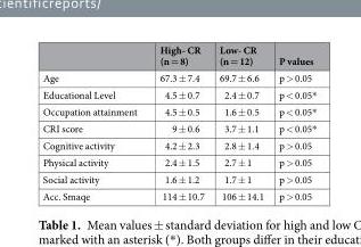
<table><thead><tr><td></td><td>High- CR (n = 8)</td><td>Low- CR (n = 12)</td><td>P values</td></tr></thead><tbody><tr><td>Age</td><td>67.3 ± 7.4</td><td>69.7 ± 6.6</td><td>p &gt; 0.05</td></tr><tr><td>Educational Level</td><td>4.5 ± 0.7</td><td>2.4 ± 0.7</td><td>p &lt; 0.05*</td></tr><tr><td>Occupation attainment</td><td>4.5 ± 0.5</td><td>1.6 ± 0.5</td><td>p &lt; 0.05*</td></tr><tr><td>CRI score</td><td>9 ± 0.6</td><td>3.7 ± 1.1</td><td>p &lt; 0.05*</td></tr><tr><td>Cognitive activity</td><td>4.2 ± 2.3</td><td>2.8 ± 1.4</td><td>p &gt; 0.05</td></tr><tr><td>Physical activity</td><td>2.4 ± 1.5</td><td>2.7 ± 1</td><td>p &gt; 0.05</td></tr><tr><td>Social activity</td><td>1.6 ± 1.2</td><td>1.7 ± 1</td><td>p &gt; 0.05</td></tr><tr><td>Acc. Smaqe</td><td>114 ± 10.7</td><td>106 ± 14.1</td><td>p &gt; 0.05</td></tr></tbody></table>